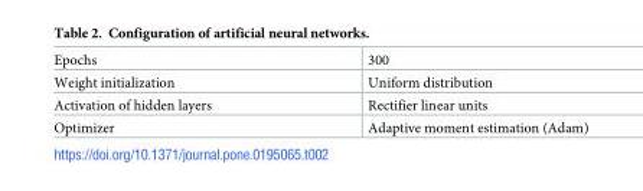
<table><tbody><tr><td>Epochs</td><td>300</td></tr><tr><td>Weight initialization</td><td>Uniform distribution</td></tr><tr><td>Activation of hidden layers</td><td>Rectifier linear units</td></tr><tr><td>Optimizer</td><td>Adaptive moment estimation (Adam)</td></tr></tbody></table>